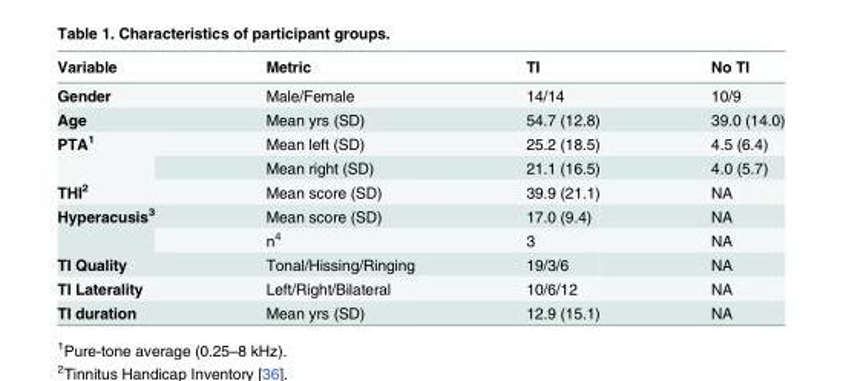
<table><thead><tr><td>Variable</td><td>Metric</td><td>TI</td><td>No TI</td></tr></thead><tbody><tr><td>Gender</td><td>Male/Female</td><td>14/14</td><td>10/9</td></tr><tr><td>Age</td><td>Mean yrs (SD)</td><td>54.7 (12.8)</td><td>39.0 (14.0)</td></tr><tr><td rowspan="2">PTA<sup>1</sup></td><td>Mean left (SD)</td><td>25.2 (18.5)</td><td>4.5 (6.4)</td></tr><tr><td>Mean right (SD)</td><td>21.1 (16.5)</td><td>4.0 (5.7)</td></tr><tr><td>THI<sup>2</sup></td><td>Mean score (SD)</td><td>39.9 (21.1)</td><td>NA</td></tr><tr><td rowspan="2">Hyperacusis<sup>3</sup></td><td>Mean score (SD)</td><td>17.0 (9.4)</td><td>NA</td></tr><tr><td>n<sup>4</sup></td><td>3</td><td>NA</td></tr><tr><td>TI Quality</td><td>Tonal/Hissing/Ringing</td><td>19/3/6</td><td>NA</td></tr><tr><td>TI Laterality</td><td>Left/Right/Bilateral</td><td>10/6/12</td><td>NA</td></tr><tr><td>TI duration</td><td>Mean yrs (SD)</td><td>12.9 (15.1)</td><td>NA</td></tr></tbody></table>